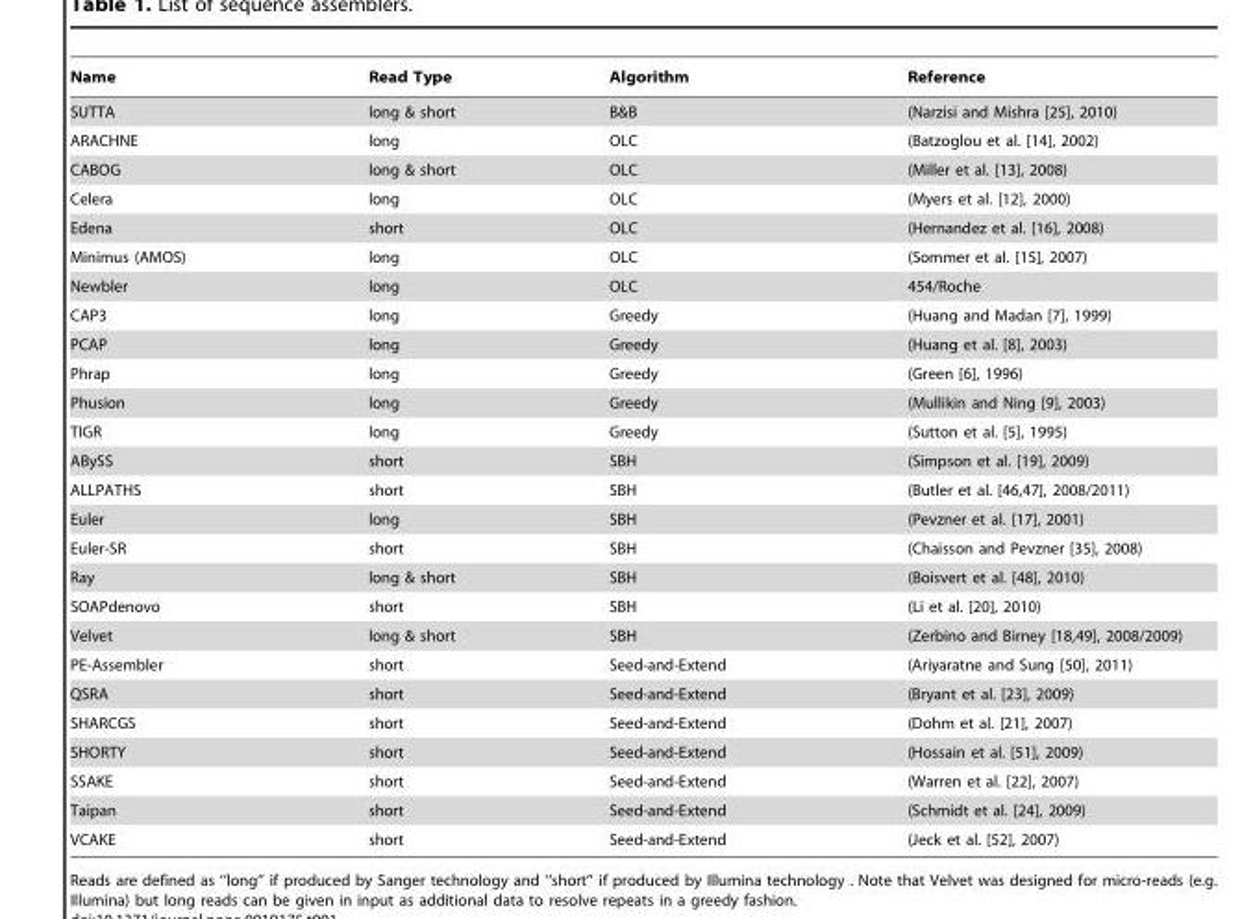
<table><thead><tr><td>Name</td><td>Read Type</td><td>Algorithm</td><td>Reference</td></tr></thead><tbody><tr><td>SUTTA</td><td>long &amp; short</td><td>B&amp;B</td><td>(Narzisi and Mishra [25], 2010)</td></tr><tr><td>ARACHNE</td><td>long</td><td>OLC</td><td>(Batzoglou et al. [14], 2002)</td></tr><tr><td>CABOG</td><td>long &amp; short</td><td>OLC</td><td>(Miller et al. [13], 2008)</td></tr><tr><td>Celera</td><td>long</td><td>OLC</td><td>(Myers et al. [12], 2000)</td></tr><tr><td>Edena</td><td>short</td><td>OLC</td><td>(Hernandez et al. [16], 2008)</td></tr><tr><td>Minimus (AMOS)</td><td>long</td><td>OLC</td><td>(Sommer et al. [15], 2007)</td></tr><tr><td>Newbler</td><td>long</td><td>OLC</td><td>454/Roche</td></tr><tr><td>CAP3</td><td>long</td><td>Greedy</td><td>(Huang and Madan [7], 1999)</td></tr><tr><td>PCAP</td><td>long</td><td>Greedy</td><td>(Huang et al. [8], 2003)</td></tr><tr><td>Phrap</td><td>long</td><td>Greedy</td><td>(Green [6], 1996)</td></tr><tr><td>Phusion</td><td>long</td><td>Greedy</td><td>(Mullikin and Ning [9], 2003)</td></tr><tr><td>TIGR</td><td>long</td><td>Greedy</td><td>(Sutton et al. [5], 1995)</td></tr><tr><td>ABySS</td><td>short</td><td>SBH</td><td>(Simpson et al. [19], 2009)</td></tr><tr><td>ALLPATHS</td><td>short</td><td>SBH</td><td>(Butler et al. [46,47], 2008/2011)</td></tr><tr><td>Euler</td><td>long</td><td>SBH</td><td>(Pevzner et al. [17], 2001)</td></tr><tr><td>Euler-SR</td><td>short</td><td>SBH</td><td>(Chaisson and Pevzner [35], 2008)</td></tr><tr><td>Ray</td><td>long &amp; short</td><td>SBH</td><td>(Boisvert et al. [48], 2010)</td></tr><tr><td>SOAPdenovo</td><td>short</td><td>SBH</td><td>(Li et al. [20], 2010)</td></tr><tr><td>Velvet</td><td>long &amp; short</td><td>SBH</td><td>(Zerbino and Birney [18,49], 2008/2009)</td></tr><tr><td>PE-Assembler</td><td>short</td><td>Seed-and-Extend</td><td>(Ariyaratne and Sung [50], 2011)</td></tr><tr><td>QSRA</td><td>short</td><td>Seed-and-Extend</td><td>(Bryant et al. [23], 2009)</td></tr><tr><td>SHARCGS</td><td>short</td><td>Seed-and-Extend</td><td>(Dohm et al. [21], 2007)</td></tr><tr><td>SHORTY</td><td>short</td><td>Seed-and-Extend</td><td>(Hossain et al. [51], 2009)</td></tr><tr><td>SSAKE</td><td>short</td><td>Seed-and-Extend</td><td>(Warren et al. [22], 2007)</td></tr><tr><td>Taipan</td><td>short</td><td>Seed-and-Extend</td><td>(Schmidt et al. [24], 2009)</td></tr><tr><td>VCAKE</td><td>short</td><td>Seed-and-Extend</td><td>(Jeck et al. [52], 2007)</td></tr></tbody></table>